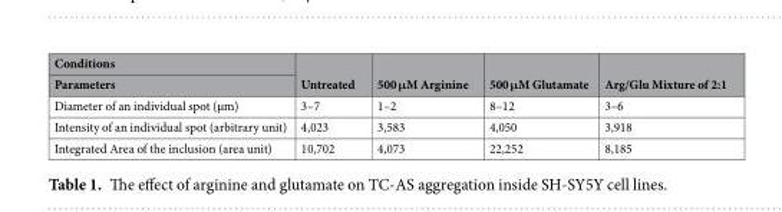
<table><thead><tr><td rowspan="2">Conditions Parameters</td><td rowspan="2">Untreated</td><td rowspan="2">500 μM Arginine</td><td rowspan="2">500 μM Glutamate</td><td rowspan="2">Arg/Glu Mixture of 2:1</td></tr><tr></tr></thead><tbody><tr><td>Diameter of an individual spot (µm)</td><td>3–7</td><td>1–2</td><td>8–12</td><td>3–6</td></tr><tr><td>Intensity of an individual spot (arbitrary unit)</td><td>4,023</td><td>3,583</td><td>4,050</td><td>3,918</td></tr><tr><td>Integrated Area of the inclusion (area unit)</td><td>10,702</td><td>4,073</td><td>22,252</td><td>8,185</td></tr></tbody></table>